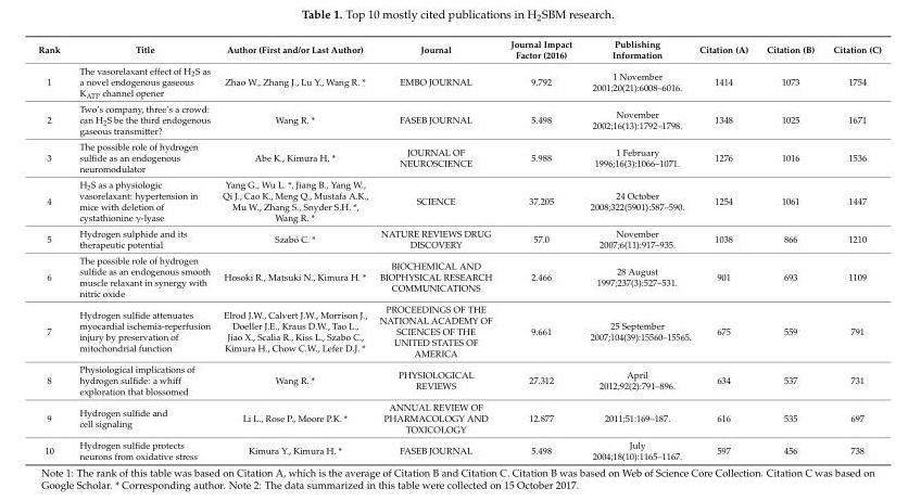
<table><thead><tr><td>Rank</td><td>Title</td><td>Author (First and/or Last Author)</td><td>Journal</td><td>Journal Impact Factor (2016)</td><td>Publishing Information</td><td>Citation (A)</td><td>Citation (B)</td><td>Citation (C)</td></tr></thead><tbody><tr><td>1</td><td>The vasorelaxant effect of H<sub>2</sub>S as a novel endogenous gaseous K<sub>ATP</sub> channel opener</td><td>Zhao W., Zhang J., Lu Y., Wang R. *</td><td>EMBO JOURNAL</td><td>9.792</td><td>1 November 2001;20(21):6008–6016.</td><td>1414</td><td>1073</td><td>1754</td></tr><tr><td>2</td><td>Two’s company, three’s a crowd: can H<sub>2</sub>S be the third endogenous gaseous transmitter?</td><td>Wang R. *</td><td>FASEB JOURNAL</td><td>5.498</td><td>November 2002;16(13):1792–1798.</td><td>1348</td><td>1025</td><td>1671</td></tr><tr><td>3</td><td>The possible role of hydrogen sulfide as an endogenous neuromodulator</td><td>Abe K., Kimura H. *</td><td>JOURNAL OF NEUROSCIENCE</td><td>5.988</td><td>1 February 1996;16(3):1066–1071.</td><td>1276</td><td>1016</td><td>1536</td></tr><tr><td>4</td><td>H<sub>2</sub>S as a physiologic vasorelaxant: hypertension in mice with deletion of cystathionine γ-lyase</td><td>Yang G., Wu L. *, Jiang B., Yang W., Qi J., Cao K., Meng Q., Mustafa A.K., Mu W., Zhang S., Snyder S.H. *, Wang R. *</td><td>SCIENCE</td><td>37.205</td><td>24 October 2008;322(5901):587–590.</td><td>1254</td><td>1061</td><td>1447</td></tr><tr><td>5</td><td>Hydrogen sulphide and its therapeutic potential</td><td>Szabó C. *</td><td>NATURE REVIEWS DRUG DISCOVERY</td><td>57.0</td><td>November 2007;6(11):917–935.</td><td>1038</td><td>866</td><td>1210</td></tr><tr><td>6</td><td>The possible role of hydrogen sulfide as an endogenous smooth muscle relaxant in synergy with nitric oxide</td><td>Hosoki R., Matsuki N., Kimura H. *</td><td>BIOCHEMICAL AND BIOPHYSICAL RESEARCH COMMUNICATIONS</td><td>2.466</td><td>28 August 1997;237(3):527–531.</td><td>901</td><td>693</td><td>1109</td></tr><tr><td>7</td><td>Hydrogen sulfide attenuates myocardial ischemia-reperfusion injury by preservation of mitochondrial function</td><td>Elrod J.W., Calvert J.W., Morrison J., Doeller J.E., Kraus D.W., Tao L., Jiao X., Scalia R., Kiss L., Szabo C., Kimura H., Chow C.W., Lefer D.J. *</td><td>PROCEEDINGS OF THE NATIONAL ACADEMY OF SCIENCES OF THE UNITED STATES OF AMERICA</td><td>9.661</td><td>25 September 2007;104(39):15560–15565.</td><td>675</td><td>559</td><td>791</td></tr><tr><td>8</td><td>Physiological implications of hydrogen sulfide: a whiff exploration that blossomed</td><td>Wang R. *</td><td>PHYSIOLOGICAL REVIEWS</td><td>27.312</td><td>April 2012;92(2):791–896.</td><td>634</td><td>537</td><td>731</td></tr><tr><td>9</td><td>Hydrogen sulfide and cell signaling</td><td>Li L., Rose P., Moore P.K. *</td><td>ANNUAL REVIEW OF PHARMACOLOGY AND TOXICOLOGY</td><td>12.877</td><td>2011;51:169–187.</td><td>616</td><td>535</td><td>697</td></tr><tr><td>10</td><td>Hydrogen sulfide protects neurons from oxidative stress</td><td>Kimura Y., Kimura H. *</td><td>FASEB JOURNAL</td><td>5.498</td><td>July 2004;18(10):1165–1167.</td><td>597</td><td>456</td><td>738</td></tr></tbody></table>